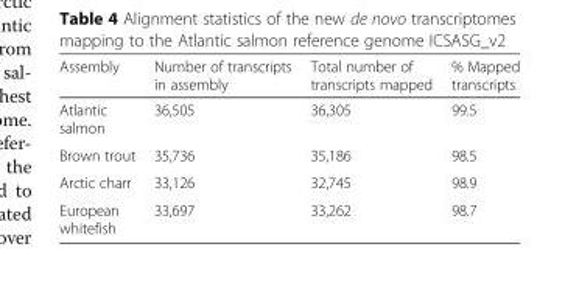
<table><thead><tr><td>Assembly</td><td>Number of transcripts in assembly</td><td>Total number of transcripts mapped</td><td>% Mapped transcripts</td></tr></thead><tbody><tr><td>Atlantic salmon</td><td>36,505</td><td>36,305</td><td>99.5</td></tr><tr><td>Brown trout</td><td>35,736</td><td>35,186</td><td>98.5</td></tr><tr><td>Arctic charr</td><td>33,126</td><td>32,745</td><td>98.9</td></tr><tr><td>European whitefish</td><td>33,697</td><td>33,262</td><td>98.7</td></tr></tbody></table>